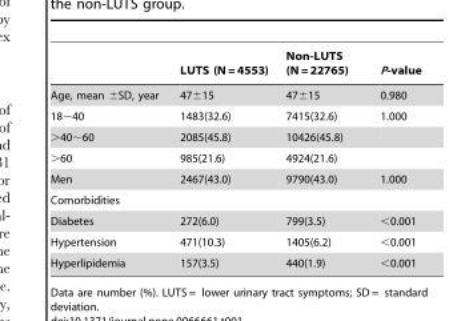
<table><thead><tr><td></td><td>LUTS (N = 4553)</td><td>Non-LUTS (N = 22765)</td><td>P-value</td></tr></thead><tbody><tr><td>Age, mean ±SD, year</td><td>47±15</td><td>47±15</td><td>0.980</td></tr><tr><td>18∼40</td><td>1483(32.6)</td><td>7415(32.6)</td><td>1.000</td></tr><tr><td>&gt;40∼60</td><td>2085(45.8)</td><td>10426(45.8)</td><td></td></tr><tr><td>&gt;60</td><td>985(21.6)</td><td>4924(21.6)</td><td></td></tr><tr><td>Men</td><td>2467(43.0)</td><td>9790(43.0)</td><td>1.000</td></tr><tr><td colspan="4">Comorbidities</td></tr><tr><td>Diabetes</td><td>272(6.0)</td><td>799(3.5)</td><td>&lt;0.001</td></tr><tr><td>Hypertension</td><td>471(10.3)</td><td>1405(6.2)</td><td>&lt;0.001</td></tr><tr><td>Hyperlipidemia</td><td>157(3.5)</td><td>440(1.9)</td><td>&lt;0.001</td></tr></tbody></table>